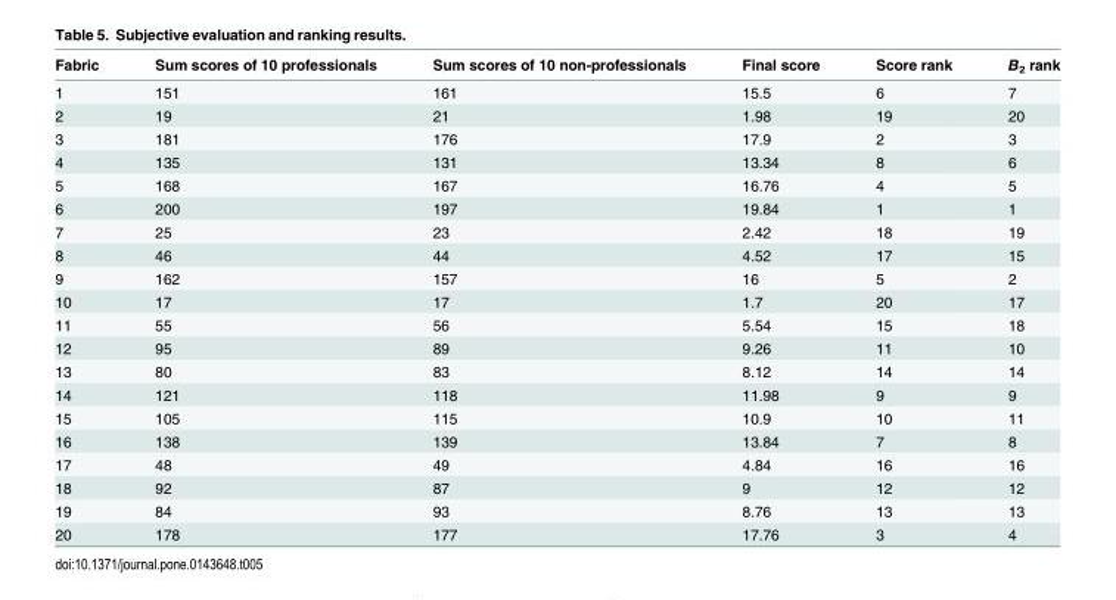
<table><thead><tr><td>Fabric</td><td>Sum scores of 10 professionals</td><td>Sum scores of 10 non-professionals</td><td>Final score</td><td>Score rank</td><td>B<sub>2</sub> rank</td></tr></thead><tbody><tr><td>1</td><td>151</td><td>161</td><td>15.5</td><td>6</td><td>7</td></tr><tr><td>2</td><td>19</td><td>21</td><td>1.98</td><td>19</td><td>20</td></tr><tr><td>3</td><td>181</td><td>176</td><td>17.9</td><td>2</td><td>3</td></tr><tr><td>4</td><td>135</td><td>131</td><td>13.34</td><td>8</td><td>6</td></tr><tr><td>5</td><td>168</td><td>167</td><td>16.76</td><td>4</td><td>5</td></tr><tr><td>6</td><td>200</td><td>197</td><td>19.84</td><td>1</td><td>1</td></tr><tr><td>7</td><td>25</td><td>23</td><td>2.42</td><td>18</td><td>19</td></tr><tr><td>8</td><td>46</td><td>44</td><td>4.52</td><td>17</td><td>15</td></tr><tr><td>9</td><td>162</td><td>157</td><td>16</td><td>5</td><td>2</td></tr><tr><td>10</td><td>17</td><td>17</td><td>1.7</td><td>20</td><td>17</td></tr><tr><td>11</td><td>55</td><td>56</td><td>5.54</td><td>15</td><td>18</td></tr><tr><td>12</td><td>95</td><td>89</td><td>9.26</td><td>11</td><td>10</td></tr><tr><td>13</td><td>80</td><td>83</td><td>8.12</td><td>14</td><td>14</td></tr><tr><td>14</td><td>121</td><td>118</td><td>11.98</td><td>9</td><td>9</td></tr><tr><td>15</td><td>105</td><td>115</td><td>10.9</td><td>10</td><td>11</td></tr><tr><td>16</td><td>138</td><td>139</td><td>13.84</td><td>7</td><td>8</td></tr><tr><td>17</td><td>48</td><td>49</td><td>4.84</td><td>16</td><td>16</td></tr><tr><td>18</td><td>92</td><td>87</td><td>9</td><td>12</td><td>12</td></tr><tr><td>19</td><td>84</td><td>93</td><td>8.76</td><td>13</td><td>13</td></tr><tr><td>20</td><td>178</td><td>177</td><td>17.76</td><td>3</td><td>4</td></tr></tbody></table>